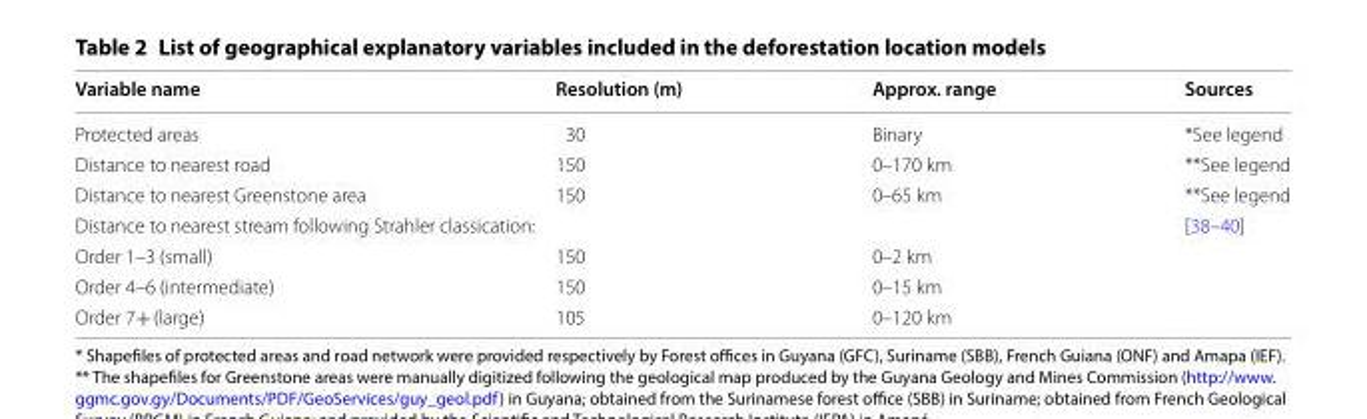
<table><thead><tr><td>Variable name</td><td>Resolution (m)</td><td>Approx. range</td><td>Sources</td></tr></thead><tbody><tr><td>Protected areas</td><td>30</td><td>Binary</td><td>*See legend</td></tr><tr><td>Distance to nearest road</td><td>150</td><td>0–170 km</td><td>**See legend</td></tr><tr><td>Distance to nearest Greenstone area</td><td>150</td><td>0–65 km</td><td>**See legend</td></tr><tr><td>Distance to nearest stream following Strahler classication:</td><td></td><td></td><td>[38–40]</td></tr><tr><td>Order 1–3 (small)</td><td>150</td><td>0–2 km</td><td></td></tr><tr><td>Order 4–6 (intermediate)</td><td>150</td><td>0–15 km</td><td></td></tr><tr><td>Order 7+ (large)</td><td>105</td><td>0–120 km</td><td></td></tr></tbody></table>